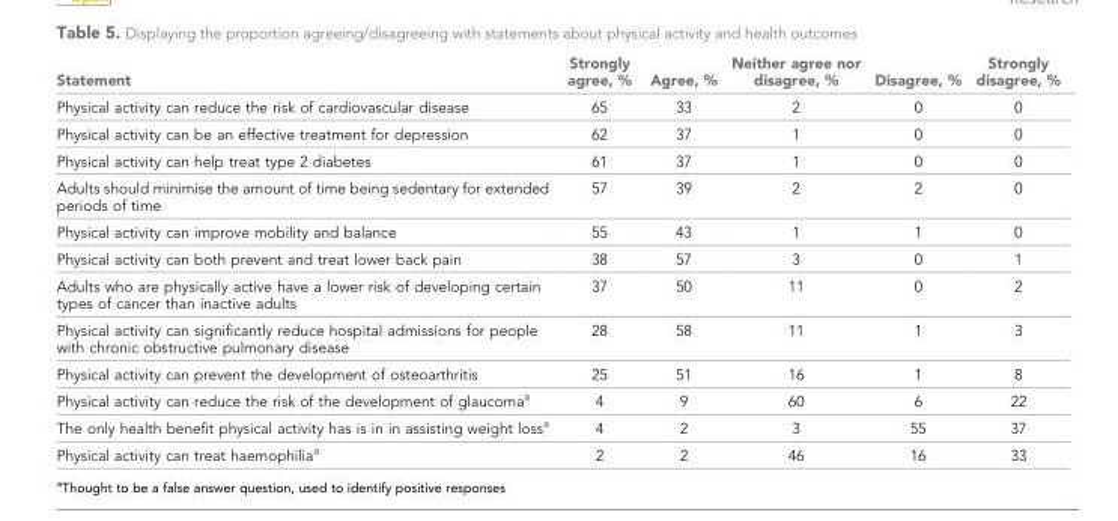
<table><thead><tr><td>Statement</td><td>Strongly agree, %</td><td>Agree, %</td><td>Neither agree nor disagree, %</td><td>Disagree, %</td><td>Strongly disagree, %</td></tr></thead><tbody><tr><td>Physical activity can reduce the risk of cardiovascular disease</td><td>65</td><td>33</td><td>2</td><td>0</td><td>0</td></tr><tr><td>Physical activity can be an effective treatment for depression</td><td>62</td><td>37</td><td>1</td><td>0</td><td>0</td></tr><tr><td>Physical activity can help treat type 2 diabetes</td><td>61</td><td>37</td><td>1</td><td>0</td><td>0</td></tr><tr><td>Adults should minimise the amount of time being sedentary for extended periods of time</td><td>57</td><td>39</td><td>2</td><td>2</td><td>0</td></tr><tr><td>Physical activity can improve mobility and balance</td><td>55</td><td>43</td><td>1</td><td>1</td><td>0</td></tr><tr><td>Physical activity can both prevent and treat lower back pain</td><td>38</td><td>57</td><td>3</td><td>0</td><td>1</td></tr><tr><td>Adults who are physically active have a lower risk of developing certain types of cancer than inactive adults</td><td>37</td><td>50</td><td>11</td><td>0</td><td>2</td></tr><tr><td>Physical activity can significantly reduce hospital admissions for people with chronic obstructive pulmonary disease</td><td>28</td><td>58</td><td>11</td><td>1</td><td>3</td></tr><tr><td>Physical activity can prevent the development of osteoarthritis</td><td>25</td><td>51</td><td>16</td><td>1</td><td>8</td></tr><tr><td>Physical activity can reduce the risk of the development of glaucoma<sup>a</sup></td><td>4</td><td>9</td><td>60</td><td>6</td><td>22</td></tr><tr><td>The only health benefit physical activity has is in in assisting weight loss<sup>a</sup></td><td>4</td><td>2</td><td>3</td><td>55</td><td>37</td></tr><tr><td>Physical activity can treat haemophilia<sup>a</sup></td><td>2</td><td>2</td><td>46</td><td>16</td><td>33</td></tr></tbody></table>